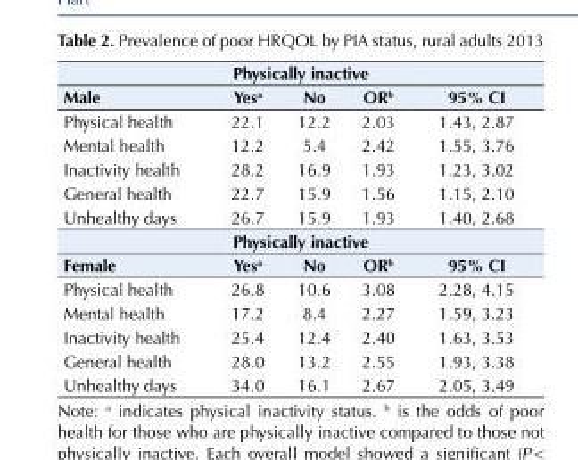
<table><tbody><tr><td colspan="5">Physically inactive</td></tr><tr><td>Male</td><td>Yes<sup>a</sup></td><td>No</td><td>OR<sup>b</sup></td><td>95% CI</td></tr><tr><td>Physical health</td><td>22.1</td><td>12.2</td><td>2.03</td><td>1.43, 2.87</td></tr><tr><td>Mental health</td><td>12.2</td><td>5.4</td><td>2.42</td><td>1.55, 3.76</td></tr><tr><td>Inactivity health</td><td>28.2</td><td>16.9</td><td>1.93</td><td>1.23, 3.02</td></tr><tr><td>General health</td><td>22.7</td><td>15.9</td><td>1.56</td><td>1.15, 2.10</td></tr><tr><td>Unhealthy days</td><td>26.7</td><td>15.9</td><td>1.93</td><td>1.40, 2.68</td></tr><tr><td colspan="5">Physically inactive</td></tr><tr><td>Female</td><td>Yes<sup>a</sup></td><td>No</td><td>OR<sup>b</sup></td><td>95% CI</td></tr><tr><td>Physical health</td><td>26.8</td><td>10.6</td><td>3.08</td><td>2.28, 4.15</td></tr><tr><td>Mental health</td><td>17.2</td><td>8.4</td><td>2.27</td><td>1.59, 3.23</td></tr><tr><td>Inactivity health</td><td>25.4</td><td>12.4</td><td>2.40</td><td>1.63, 3.53</td></tr><tr><td>General health</td><td>28.0</td><td>13.2</td><td>2.55</td><td>1.93, 3.38</td></tr><tr><td>Unhealthy days</td><td>34.0</td><td>16.1</td><td>2.67</td><td>2.05, 3.49</td></tr></tbody></table>